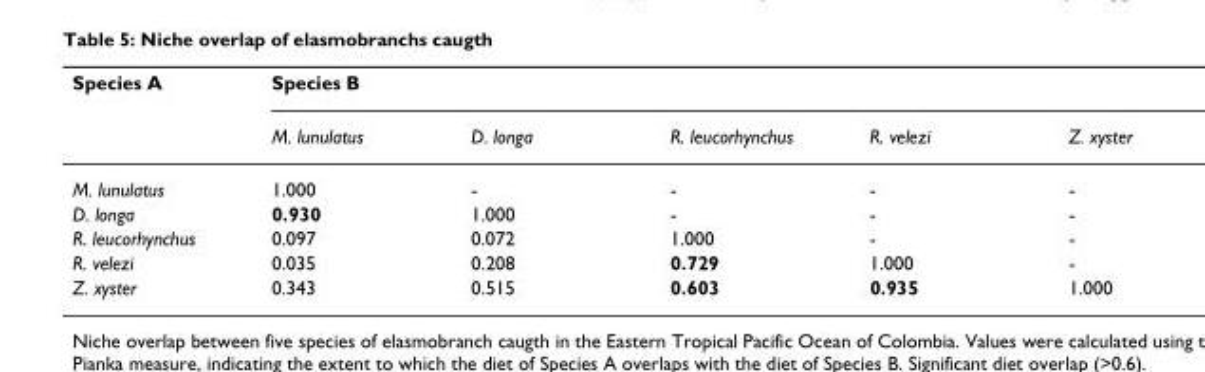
<table><thead><tr><td rowspan="2">Species A</td><td colspan="5">Species B</td></tr><tr><td>M. lunulatus</td><td>D. longa</td><td>R. leucorhynchus</td><td>R. velezi</td><td>Z. xyster</td></tr></thead><tbody><tr><td>M. lunulatus</td><td>1.000</td><td>-</td><td>-</td><td>-</td><td>-</td></tr><tr><td>D. longa</td><td>0.930</td><td>1.000</td><td>-</td><td>-</td><td>-</td></tr><tr><td>R. leucorhynchus</td><td>0.097</td><td>0.072</td><td>1.000</td><td>-</td><td>-</td></tr><tr><td>R. velezi</td><td>0.035</td><td>0.208</td><td>0.729</td><td>1.000</td><td>-</td></tr><tr><td>Z. xyster</td><td>0.343</td><td>0.515</td><td>0.603</td><td>0.935</td><td>1.000</td></tr></tbody></table>